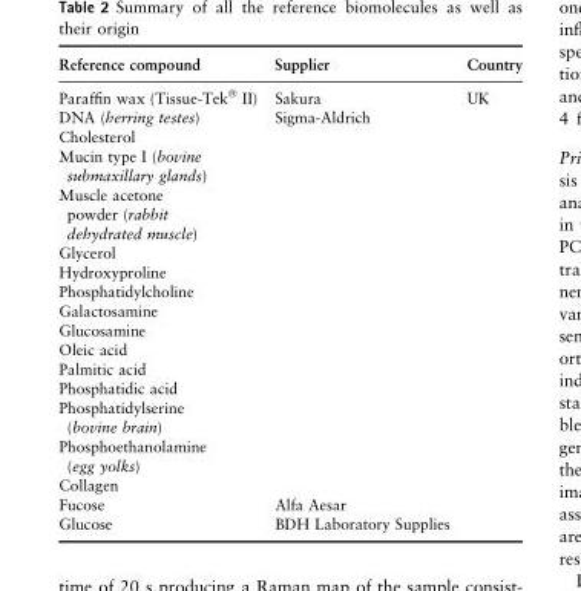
<table><thead><tr><td>Reference compound</td><td>Supplier</td><td>Country</td></tr></thead><tbody><tr><td>Paraffin wax (Tissue-Tek<sup>®</sup> II)</td><td>Sakura</td><td rowspan="18">UK</td></tr><tr><td>DNA (herring testes)</td><td rowspan="15">Sigma-Aldrich</td></tr><tr><td>Cholesterol</td></tr><tr><td>Mucin type I (bovine submaxillary glands)</td></tr><tr><td>Muscle acetone powder (rabbit dehydrated muscle)</td></tr><tr><td>Glycerol</td></tr><tr><td>Hydroxyproline</td></tr><tr><td>Phosphatidylcholine</td></tr><tr><td>Galactosamine</td></tr><tr><td>Glucosamine</td></tr><tr><td>Oleic acid</td></tr><tr><td>Palmitic acid</td></tr><tr><td>Phosphatidic acid</td></tr><tr><td>Phosphatidylserine (bovine brain)</td></tr><tr><td>Phosphoethanolamine (egg yolks)</td></tr><tr><td>Collagen</td></tr><tr><td>Fucose</td><td>Alfa Aesar</td></tr><tr><td>Glucose</td><td>BDH Laboratory Supplies</td></tr></tbody></table>